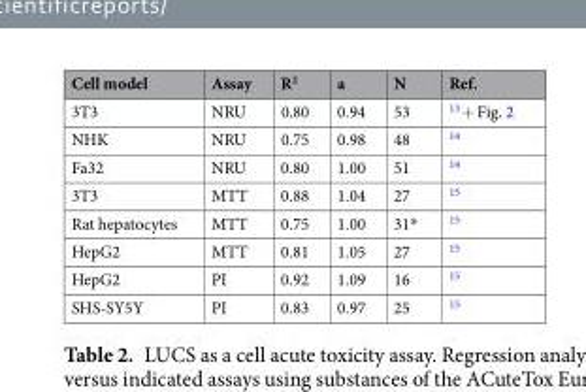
<table><thead><tr><td>Cell model</td><td>Assay</td><td>R<sup>2</sup></td><td>a</td><td>N</td><td>Ref.</td></tr></thead><tbody><tr><td>3T3</td><td>NRU</td><td>0.80</td><td>0.94</td><td>53</td><td><sup>13</sup> + Fig. 2</td></tr><tr><td>NHK</td><td>NRU</td><td>0.75</td><td>0.98</td><td>48</td><td><sup>14</sup></td></tr><tr><td>Fa32</td><td>NRU</td><td>0.80</td><td>1.00</td><td>51</td><td><sup>14</sup></td></tr><tr><td>3T3</td><td>MTT</td><td>0.88</td><td>1.04</td><td>27</td><td><sup>15</sup></td></tr><tr><td>Rat hepatocytes</td><td>MTT</td><td>0.75</td><td>1.00</td><td>31*</td><td><sup>15</sup></td></tr><tr><td>HepG2</td><td>MTT</td><td>0.81</td><td>1.05</td><td>27</td><td><sup>15</sup></td></tr><tr><td>HepG2</td><td>PI</td><td>0.92</td><td>1.09</td><td>16</td><td><sup>15</sup></td></tr><tr><td>SHS-SY5Y</td><td>PI</td><td>0.83</td><td>0.97</td><td>25</td><td><sup>15</sup></td></tr></tbody></table>